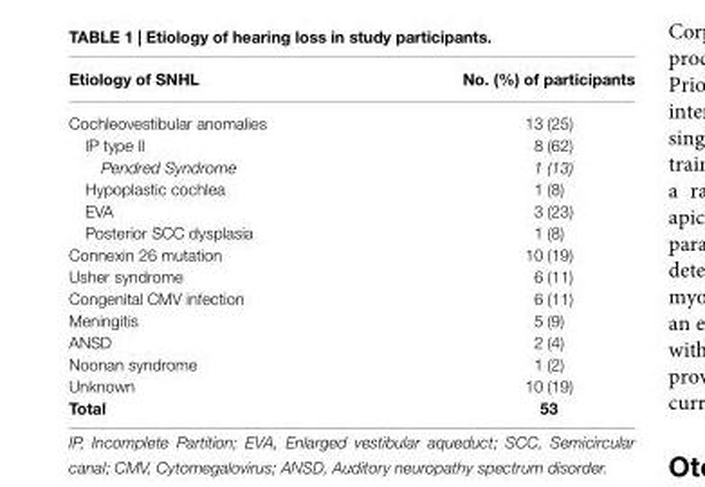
<table><thead><tr><td>Etiology of SNHL</td><td>No. (%) of participants</td></tr></thead><tbody><tr><td>Cochleovestibular anomalies</td><td>13 (25)</td></tr><tr><td>IP type II</td><td>8 (62)</td></tr><tr><td>Pendred Syndrome</td><td>1 (13)</td></tr><tr><td>Hypoplastic cochlea</td><td>1 (8)</td></tr><tr><td>EVA</td><td>3 (23)</td></tr><tr><td>Posterior SCC dysplasia</td><td>1 (8)</td></tr><tr><td>Connexin 26 mutation</td><td>10 (19)</td></tr><tr><td>Usher syndrome</td><td>6 (11)</td></tr><tr><td>Congenital CMV infection</td><td>6 (11)</td></tr><tr><td>Meningitis</td><td>5 (9)</td></tr><tr><td>ANSD</td><td>2 (4)</td></tr><tr><td>Noonan syndrome</td><td>1 (2)</td></tr><tr><td>Unknown</td><td>10 (19)</td></tr><tr><td>Total</td><td>53</td></tr></tbody></table>